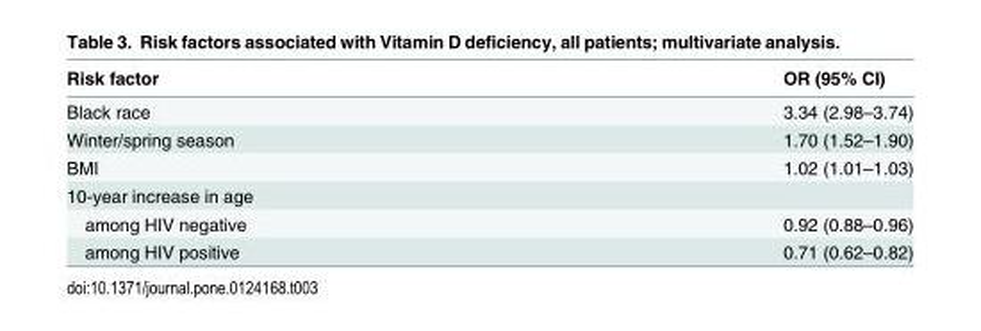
<table><thead><tr><td>Risk factor</td><td>OR (95% CI)</td></tr></thead><tbody><tr><td>Black race</td><td>3.34 (2.98–3.74)</td></tr><tr><td>Winter/spring season</td><td>1.70 (1.52–1.90)</td></tr><tr><td>BMI</td><td>1.02 (1.01–1.03)</td></tr><tr><td colspan="2">10-year increase in age</td></tr><tr><td>among HIV negative</td><td>0.92 (0.88–0.96)</td></tr><tr><td>among HIV positive</td><td>0.71 (0.62–0.82)</td></tr></tbody></table>